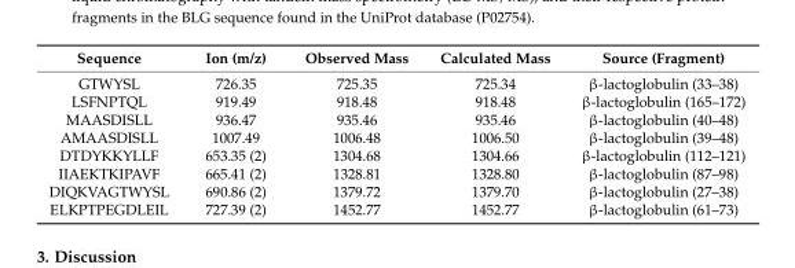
<table><thead><tr><td>Sequence</td><td>Ion (m/z)</td><td>Observed Mass</td><td>Calculated Mass</td><td>Source (Fragment)</td></tr></thead><tbody><tr><td>GTWYSL</td><td>726.35</td><td>725.35</td><td>725.34</td><td>β-lactoglobulin (33–38)</td></tr><tr><td>LSFNPTQL</td><td>919.49</td><td>918.48</td><td>918.48</td><td>β-lactoglobulin (165–172)</td></tr><tr><td>MAASDISLL</td><td>936.47</td><td>935.46</td><td>935.46</td><td>β-lactoglobulin (40–48)</td></tr><tr><td>AMAASDISLL</td><td>1007.49</td><td>1006.48</td><td>1006.50</td><td>β-lactoglobulin (39–48)</td></tr><tr><td>DTDYKKYLLF</td><td>653.35 (2)</td><td>1304.68</td><td>1304.66</td><td>β-lactoglobulin (112–121)</td></tr><tr><td>IIAEKTKIPAVF</td><td>665.41 (2)</td><td>1328.81</td><td>1328.80</td><td>β-lactoglobulin (87–98)</td></tr><tr><td>DIQKVAGTWYSL</td><td>690.86 (2)</td><td>1379.72</td><td>1379.70</td><td>β-lactoglobulin (27–38)</td></tr><tr><td>ELKPTPEGDLEIL</td><td>727.39 (2)</td><td>1452.77</td><td>1452.77</td><td>β-lactoglobulin (61–73)</td></tr></tbody></table>